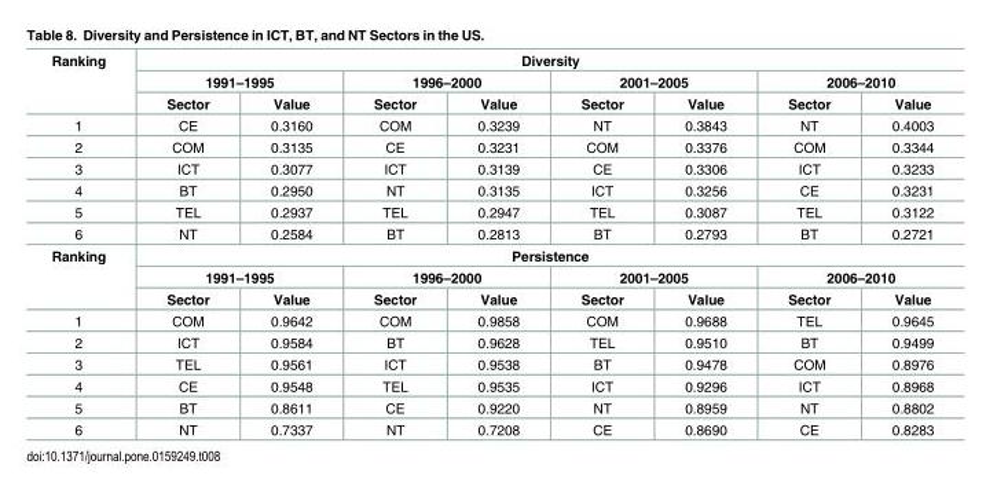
<table><tbody><tr><td rowspan="3">Ranking</td><td colspan="8">Diversity</td></tr><tr><td colspan="2">1991–1995</td><td colspan="2">1996–2000</td><td colspan="2">2001–2005</td><td colspan="2">2006–2010</td></tr><tr><td>Sector</td><td>Value</td><td>Sector</td><td>Value</td><td>Sector</td><td>Value</td><td>Sector</td><td>Value</td></tr><tr><td>1</td><td>CE</td><td>0.3160</td><td>COM</td><td>0.3239</td><td>NT</td><td>0.3843</td><td>NT</td><td>0.4003</td></tr><tr><td>2</td><td>COM</td><td>0.3135</td><td>CE</td><td>0.3231</td><td>COM</td><td>0.3376</td><td>COM</td><td>0.3344</td></tr><tr><td>3</td><td>ICT</td><td>0.3077</td><td>ICT</td><td>0.3139</td><td>CE</td><td>0.3306</td><td>ICT</td><td>0.3233</td></tr><tr><td>4</td><td>BT</td><td>0.2950</td><td>NT</td><td>0.3135</td><td>ICT</td><td>0.3256</td><td>CE</td><td>0.3231</td></tr><tr><td>5</td><td>TEL</td><td>0.2937</td><td>TEL</td><td>0.2947</td><td>TEL</td><td>0.3087</td><td>TEL</td><td>0.3122</td></tr><tr><td>6</td><td>NT</td><td>0.2584</td><td>BT</td><td>0.2813</td><td>BT</td><td>0.2793</td><td>BT</td><td>0.2721</td></tr><tr><td rowspan="3">Ranking</td><td colspan="8">Persistence</td></tr><tr><td colspan="2">1991–1995</td><td colspan="2">1996–2000</td><td colspan="2">2001–2005</td><td colspan="2">2006–2010</td></tr><tr><td>Sector</td><td>Value</td><td>Sector</td><td>Value</td><td>Sector</td><td>Value</td><td>Sector</td><td>Value</td></tr><tr><td>1</td><td>COM</td><td>0.9642</td><td>COM</td><td>0.9858</td><td>COM</td><td>0.9688</td><td>TEL</td><td>0.9645</td></tr><tr><td>2</td><td>ICT</td><td>0.9584</td><td>BT</td><td>0.9628</td><td>TEL</td><td>0.9510</td><td>BT</td><td>0.9499</td></tr><tr><td>3</td><td>TEL</td><td>0.9561</td><td>ICT</td><td>0.9538</td><td>BT</td><td>0.9478</td><td>COM</td><td>0.8976</td></tr><tr><td>4</td><td>CE</td><td>0.9548</td><td>TEL</td><td>0.9535</td><td>ICT</td><td>0.9296</td><td>ICT</td><td>0.8968</td></tr><tr><td>5</td><td>BT</td><td>0.8611</td><td>CE</td><td>0.9220</td><td>NT</td><td>0.8959</td><td>NT</td><td>0.8802</td></tr><tr><td>6</td><td>NT</td><td>0.7337</td><td>NT</td><td>0.7208</td><td>CE</td><td>0.8690</td><td>CE</td><td>0.8283</td></tr></tbody></table>